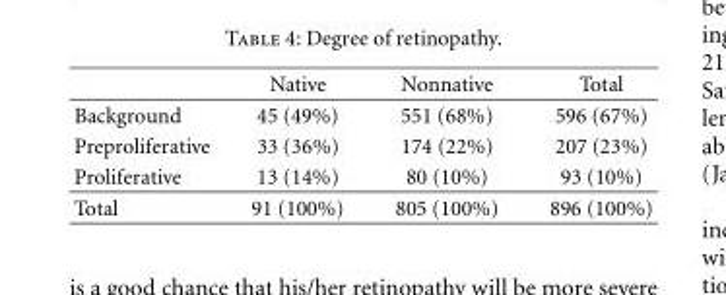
<table><thead><tr><td></td><td>Native</td><td>Nonnative</td><td>Total</td></tr></thead><tbody><tr><td>Background</td><td>45 (49%)</td><td>551 (68%)</td><td>596 (67%)</td></tr><tr><td>Preproliferative</td><td>33 (36%)</td><td>174 (22%)</td><td>207 (23%)</td></tr><tr><td>Proliferative</td><td>13 (14%)</td><td>80 (10%)</td><td>93 (10%)</td></tr><tr><td>Total</td><td>91 (100%)</td><td>805 (100%)</td><td>896 (100%)</td></tr></tbody></table>